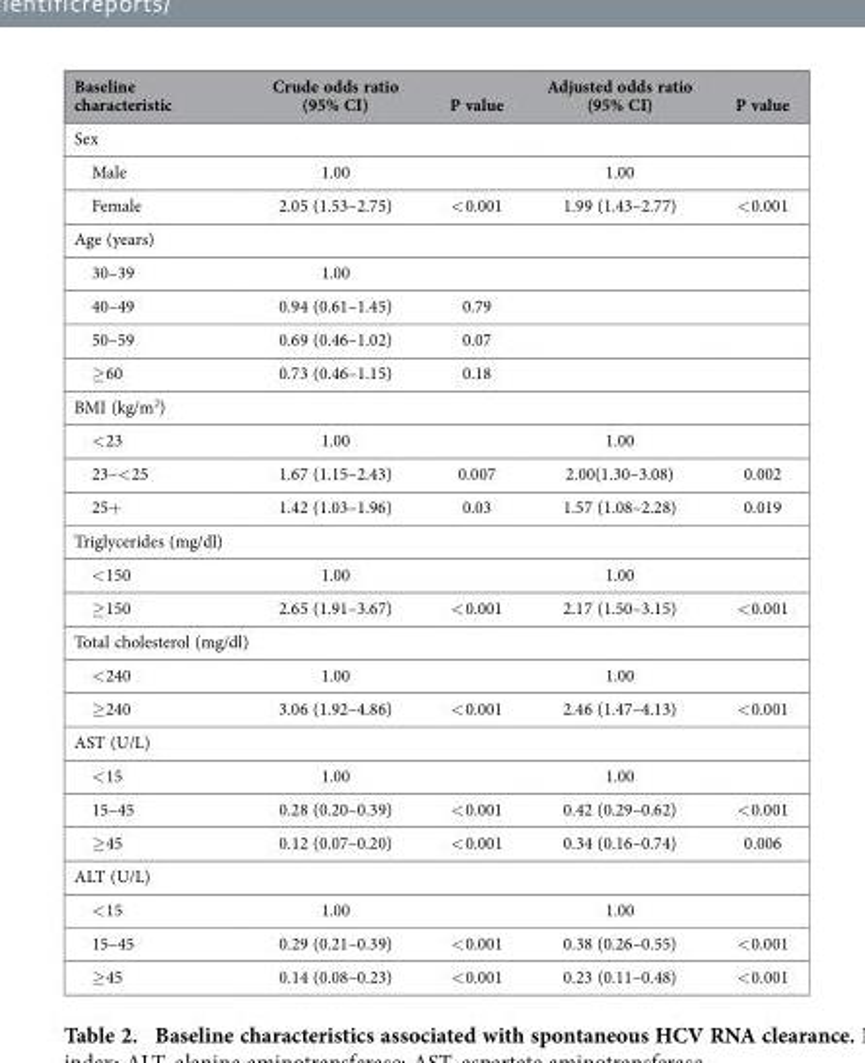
<table><thead><tr><td>Baseline characteristic</td><td>Crude odds ratio (95% CI)</td><td>P value</td><td>Adjusted odds ratio (95% CI)</td><td>P value</td></tr></thead><tbody><tr><td colspan="5">Sex</td></tr><tr><td>Male</td><td>1.00</td><td></td><td>1.00</td><td></td></tr><tr><td>Female</td><td>2.05 (1.53–2.75)</td><td>&lt; 0.001</td><td>1.99 (1.43–2.77)</td><td>&lt; 0.001</td></tr><tr><td colspan="5">Age (years)</td></tr><tr><td>30–39</td><td>1.00</td><td></td><td></td><td></td></tr><tr><td>40–49</td><td>0.94 (0.61–1.45)</td><td>0.79</td><td></td><td></td></tr><tr><td>50–59</td><td>0.69 (0.46–1.02)</td><td>0.07</td><td></td><td></td></tr><tr><td>≥ 60</td><td>0.73 (0.46–1.15)</td><td>0.18</td><td></td><td></td></tr><tr><td colspan="5">BMI (kg/m<sup>2</sup>)</td></tr><tr><td>&lt; 23</td><td>1.00</td><td></td><td>1.00</td><td></td></tr><tr><td>23–&lt; 25</td><td>1.67 (1.15–2.43)</td><td>0.007</td><td>2.00(1.30–3.08)</td><td>0.002</td></tr><tr><td>25+</td><td>1.42 (1.03–1.96)</td><td>0.03</td><td>1.57 (1.08–2.28)</td><td>0.019</td></tr><tr><td colspan="5">Triglycerides (mg/dl)</td></tr><tr><td>&lt; 150</td><td>1.00</td><td></td><td>1.00</td><td></td></tr><tr><td>≥ 150</td><td>2.65 (1.91–3.67)</td><td>&lt; 0.001</td><td>2.17 (1.50–3.15)</td><td>&lt; 0.001</td></tr><tr><td colspan="5">Total cholesterol (mg/dl)</td></tr><tr><td>&lt; 240</td><td>1.00</td><td></td><td>1.00</td><td></td></tr><tr><td>≥ 240</td><td>3.06 (1.92–4.86)</td><td>&lt; 0.001</td><td>2.46 (1.47–4.13)</td><td>&lt; 0.001</td></tr><tr><td colspan="5">AST (U/L)</td></tr><tr><td>&lt; 15</td><td>1.00</td><td></td><td>1.00</td><td></td></tr><tr><td>15–45</td><td>0.28 (0.20–0.39)</td><td>&lt; 0.001</td><td>0.42 (0.29–0.62)</td><td>&lt; 0.001</td></tr><tr><td>≥ 45</td><td>0.12 (0.07–0.20)</td><td>&lt; 0.001</td><td>0.34 (0.16–0.74)</td><td>0.006</td></tr><tr><td colspan="5">ALT (U/L)</td></tr><tr><td>&lt; 15</td><td>1.00</td><td></td><td>1.00</td><td></td></tr><tr><td>15–45</td><td>0.29 (0.21–0.39)</td><td>&lt; 0.001</td><td>0.38 (0.26–0.55)</td><td>&lt; 0.001</td></tr><tr><td>≥ 45</td><td>0.14 (0.08–0.23)</td><td>&lt; 0.001</td><td>0.23 (0.11–0.48)</td><td>&lt; 0.001</td></tr></tbody></table>